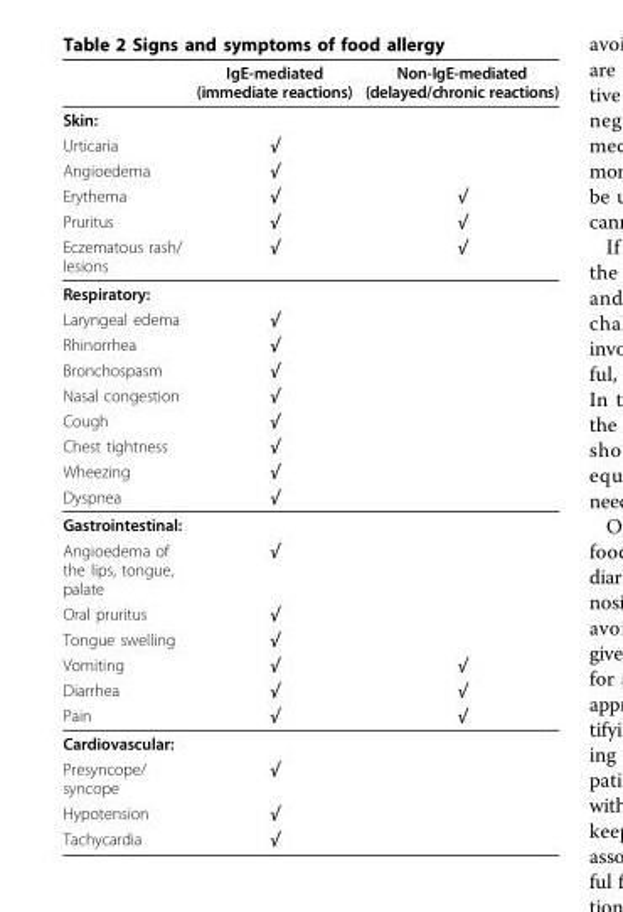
<table><thead><tr><td></td><td>IgE-mediated (immediate reactions)</td><td>Non-IgE-mediated (delayed/chronic reactions)</td></tr></thead><tbody><tr><td colspan="3">Skin:</td></tr><tr><td>Urticaria</td><td>√</td><td></td></tr><tr><td>Angioedema</td><td>√</td><td></td></tr><tr><td>Erythema</td><td>√</td><td>√</td></tr><tr><td>Pruritus</td><td>√</td><td>√</td></tr><tr><td>Eczematous rash/ lesions</td><td>√</td><td>√</td></tr><tr><td colspan="3">Respiratory:</td></tr><tr><td>Laryngeal edema</td><td>√</td><td></td></tr><tr><td>Rhinorrhea</td><td>√</td><td></td></tr><tr><td>Bronchospasm</td><td>√</td><td></td></tr><tr><td>Nasal congestion</td><td>√</td><td></td></tr><tr><td>Cough</td><td>√</td><td></td></tr><tr><td>Chest tightness</td><td>√</td><td></td></tr><tr><td>Wheezing</td><td>√</td><td></td></tr><tr><td>Dyspnea</td><td>√</td><td></td></tr><tr><td colspan="3">Gastrointestinal:</td></tr><tr><td>Angioedema of the lips, tongue, palate</td><td>√</td><td></td></tr><tr><td>Oral pruritus</td><td>√</td><td></td></tr><tr><td>Tongue swelling</td><td>√</td><td></td></tr><tr><td>Vomiting</td><td>√</td><td>√</td></tr><tr><td>Diarrhea</td><td>√</td><td>√</td></tr><tr><td>Pain</td><td>√</td><td>√</td></tr><tr><td colspan="3">Cardiovascular:</td></tr><tr><td>Presyncope/ syncope</td><td>√</td><td></td></tr><tr><td>Hypotension</td><td>√</td><td></td></tr><tr><td>Tachycardia</td><td>√</td><td></td></tr></tbody></table>